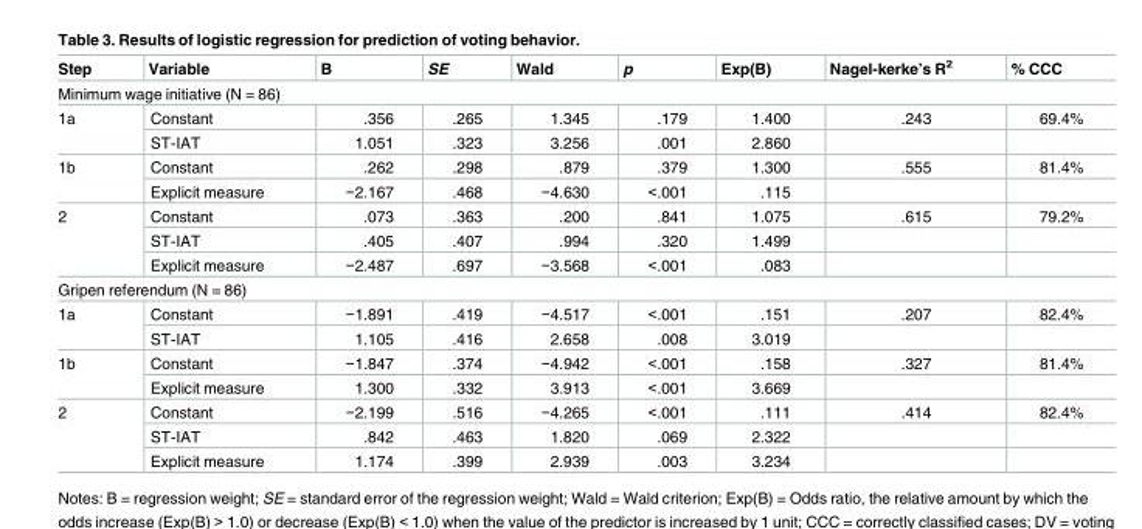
<table><thead><tr><td>Step</td><td>Variable</td><td>B</td><td>SE</td><td>Wald</td><td>p</td><td>Exp(B)</td><td>Nagel-kerke’s R<sup>2</sup></td><td>% CCC</td></tr></thead><tbody><tr><td colspan="9">Minimum wage initiative (N = 86)</td></tr><tr><td rowspan="2">1a</td><td>Constant</td><td>.356</td><td>.265</td><td>1.345</td><td>.179</td><td>1.400</td><td>.243</td><td>69.4%</td></tr><tr><td>ST-IAT</td><td>1.051</td><td>.323</td><td>3.256</td><td>.001</td><td>2.860</td><td></td><td></td></tr><tr><td rowspan="2">1b</td><td>Constant</td><td>.262</td><td>.298</td><td>.879</td><td>.379</td><td>1.300</td><td>.555</td><td>81.4%</td></tr><tr><td>Explicit measure</td><td>−2.167</td><td>.468</td><td>−4.630</td><td>&lt;.001</td><td>.115</td><td></td><td></td></tr><tr><td rowspan="3">2</td><td>Constant</td><td>.073</td><td>.363</td><td>.200</td><td>.841</td><td>1.075</td><td>.615</td><td>79.2%</td></tr><tr><td>ST-IAT</td><td>.405</td><td>.407</td><td>.994</td><td>.320</td><td>1.499</td><td></td><td></td></tr><tr><td>Explicit measure</td><td>−2.487</td><td>.697</td><td>−3.568</td><td>&lt;.001</td><td>.083</td><td></td><td></td></tr><tr><td colspan="9">Gripen referendum (N = 86)</td></tr><tr><td rowspan="2">1a</td><td>Constant</td><td>−1.891</td><td>.419</td><td>−4.517</td><td>&lt;.001</td><td>.151</td><td>.207</td><td>82.4%</td></tr><tr><td>ST-IAT</td><td>1.105</td><td>.416</td><td>2.658</td><td>.008</td><td>3.019</td><td></td><td></td></tr><tr><td rowspan="2">1b</td><td>Constant</td><td>−1.847</td><td>.374</td><td>−4.942</td><td>&lt;.001</td><td>.158</td><td>.327</td><td>81.4%</td></tr><tr><td>Explicit measure</td><td>1.300</td><td>.332</td><td>3.913</td><td>&lt;.001</td><td>3.669</td><td></td><td></td></tr><tr><td rowspan="3">2</td><td>Constant</td><td>−2.199</td><td>.516</td><td>−4.265</td><td>&lt;.001</td><td>.111</td><td>.414</td><td>82.4%</td></tr><tr><td>ST-IAT</td><td>.842</td><td>.463</td><td>1.820</td><td>.069</td><td>2.322</td><td></td><td></td></tr><tr><td>Explicit measure</td><td>1.174</td><td>.399</td><td>2.939</td><td>.003</td><td>3.234</td><td></td><td></td></tr></tbody></table>